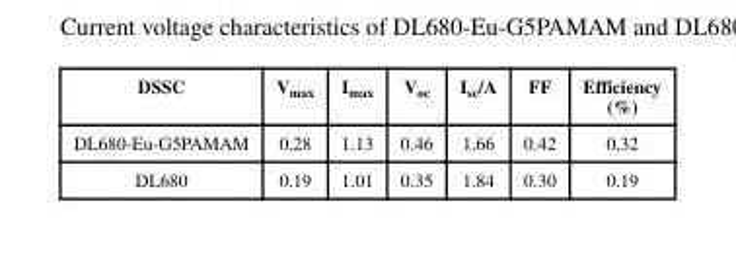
<table><thead><tr><td>DSSC</td><td>V<sub>max</sub></td><td>I<sub>max</sub></td><td>V<sub>oc</sub></td><td>I<sub>sc</sub>/A</td><td>FF</td><td>Efficiency (%)</td></tr></thead><tbody><tr><td>DL680-Eu-G5PAMAM</td><td>0.28</td><td>1.13</td><td>0.46</td><td>1.66</td><td>0.42</td><td>0.32</td></tr><tr><td>DL680</td><td>0.19</td><td>1.01</td><td>0.35</td><td>1.84</td><td>0.30</td><td>0.19</td></tr></tbody></table>